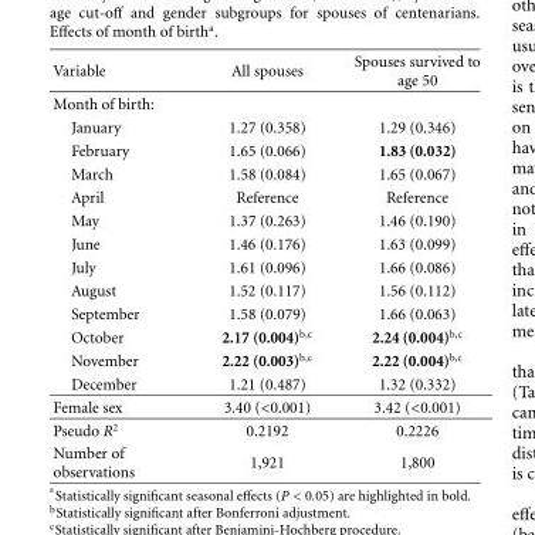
<table><thead><tr><td>Variable</td><td>All spouses</td><td>Spouses survived to age 50</td></tr></thead><tbody><tr><td colspan="3">Month of birth:</td></tr><tr><td>January</td><td>1.27 (0.358)</td><td>1.29 (0.346)</td></tr><tr><td>February</td><td>1.65 (0.066)</td><td>1.83 (0.032)</td></tr><tr><td>March</td><td>1.58 (0.084)</td><td>1.65 (0.067)</td></tr><tr><td>April</td><td>Reference</td><td>Reference</td></tr><tr><td>May</td><td>1.37 (0.263)</td><td>1.46 (0.190)</td></tr><tr><td>June</td><td>1.46 (0.176)</td><td>1.63 (0.099)</td></tr><tr><td>July</td><td>1.61 (0.096)</td><td>1.66 (0.086)</td></tr><tr><td>August</td><td>1.52 (0.117)</td><td>1.56 (0.112)</td></tr><tr><td>September</td><td>1.58 (0.079)</td><td>1.66 (0.063)</td></tr><tr><td>October</td><td>2.17 (0.004)<sup>b,c</sup></td><td>2.24 (0.004)<sup>b,c</sup></td></tr><tr><td>November</td><td>2.22 (0.003)<sup>b,c</sup></td><td>2.22 (0.004)<sup>b,c</sup></td></tr><tr><td>December</td><td>1.21 (0.487)</td><td>1.32 (0.332)</td></tr><tr><td>Female sex</td><td>3.40 (&lt;0.001)</td><td>3.42 (&lt;0.001)</td></tr><tr><td>Pseudo R<sup>2</sup></td><td>0.2192</td><td>0.2226</td></tr><tr><td>Number of observations</td><td>1,921</td><td>1,800</td></tr></tbody></table>